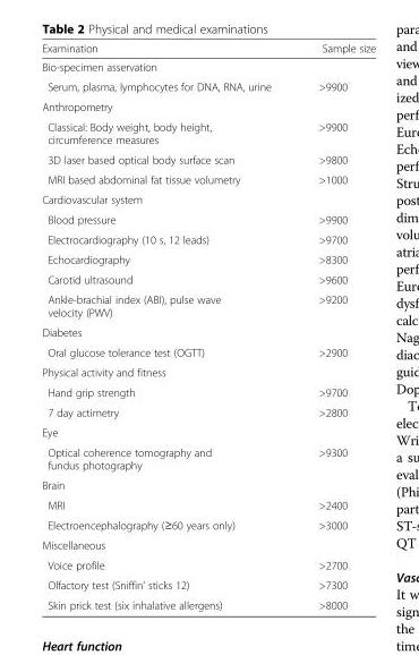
<table><thead><tr><td>Examination</td><td>Sample size</td></tr></thead><tbody><tr><td colspan="2">Bio-specimen asservation</td></tr><tr><td>Serum, plasma, lymphocytes for DNA, RNA, urine</td><td>&gt;9900</td></tr><tr><td colspan="2">Anthropometry</td></tr><tr><td>Classical: Body weight, body height, circumference measures</td><td>&gt;9900</td></tr><tr><td>3D laser based optical body surface scan</td><td>&gt;9800</td></tr><tr><td>MRI based abdominal fat tissue volumetry</td><td>&gt;1000</td></tr><tr><td colspan="2">Cardiovascular system</td></tr><tr><td>Blood pressure</td><td>&gt;9900</td></tr><tr><td>Electrocardiography (10 s, 12 leads)</td><td>&gt;9700</td></tr><tr><td>Echocardiography</td><td>&gt;8300</td></tr><tr><td>Carotid ultrasound</td><td>&gt;9600</td></tr><tr><td>Ankle-brachial index (ABI), pulse wave velocity (PWV)</td><td>&gt;9200</td></tr><tr><td colspan="2">Diabetes</td></tr><tr><td>Oral glucose tolerance test (OGTT)</td><td>&gt;2900</td></tr><tr><td colspan="2">Physical activity and fitness</td></tr><tr><td>Hand grip strength</td><td>&gt;9700</td></tr><tr><td>7 day actimetry</td><td>&gt;2800</td></tr><tr><td colspan="2">Eye</td></tr><tr><td>Optical coherence tomography and fundus photography</td><td>&gt;9300</td></tr><tr><td colspan="2">Brain</td></tr><tr><td>MRI</td><td>&gt;2400</td></tr><tr><td>Electroencephalography (≥60 years only)</td><td>&gt;3000</td></tr><tr><td colspan="2">Miscellaneous</td></tr><tr><td>Voice profile</td><td>&gt;2700</td></tr><tr><td>Olfactory test (Sniffin’ sticks 12)</td><td>&gt;7300</td></tr><tr><td>Skin prick test (six inhalative allergens)</td><td>&gt;8000</td></tr></tbody></table>